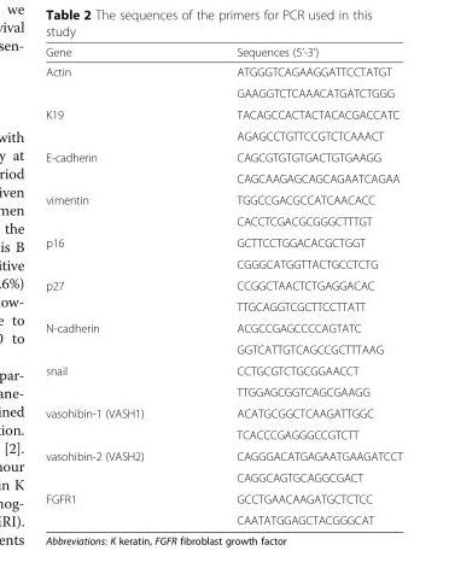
<table><thead><tr><td>Gene</td><td>Sequences (5’-3’)</td></tr></thead><tbody><tr><td rowspan="2">Actin</td><td>ATGGGTCAGAAGGATTCCTATGT</td></tr><tr><td>GAAGGTCTCAAACATGATCTGGG</td></tr><tr><td rowspan="2">K19</td><td>TACAGCCACTACTACACGACCATC</td></tr><tr><td>AGAGCCTGTTCCGTCTCAAACT</td></tr><tr><td rowspan="2">E-cadherin</td><td>CAGCGTGTGTGACTGTGAAGG</td></tr><tr><td>CAGCAAGAGCAGCAGAATCAGAA</td></tr><tr><td rowspan="2">vimentin</td><td>TGGCCGACGCCATCAACACC</td></tr><tr><td>CACCTCGACGCGGGCTTTGT</td></tr><tr><td rowspan="2">p16</td><td>GCTTCCTGGACACGCTGGT</td></tr><tr><td>CGGGCATGGTTACTGCCTCTG</td></tr><tr><td rowspan="2">p27</td><td>CCGGCTAACTCTGAGGACAC</td></tr><tr><td>TTGCAGGTCGCTTCCTTATT</td></tr><tr><td rowspan="2">N-cadherin</td><td>ACGCCGAGCCCCAGTATC</td></tr><tr><td>GGTCATTGTCAGCCGCTTTAAG</td></tr><tr><td rowspan="2">snail</td><td>CCTGCGTCTGCGGAACCT</td></tr><tr><td>TTGGAGCGGTCAGCGAAGG</td></tr><tr><td rowspan="2">vasohibin-1 (VASH1)</td><td>ACATGCGGCTCAAGATTGGC</td></tr><tr><td>TCACCCGAGGGCCGTCTT</td></tr><tr><td rowspan="2">vasohibin-2 (VASH2)</td><td>CAGGGACATGAGAATGAAGATCCT</td></tr><tr><td>CAGGCAGTGCAGGCGACT</td></tr><tr><td rowspan="2">FGFR1</td><td>GCCTGAACAAGATGCTCTCC</td></tr><tr><td>CAATATGGAGCTACGGGCAT</td></tr></tbody></table>